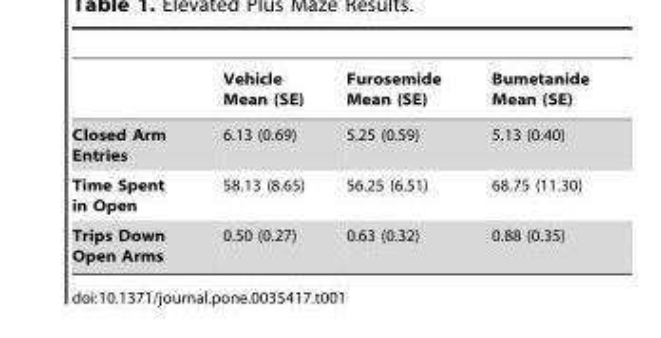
<table><thead><tr><td></td><td>Vehicle Mean (SE)</td><td>Furosemide Mean (SE)</td><td>Bumetanide Mean (SE)</td></tr></thead><tbody><tr><td>Closed Arm Entries</td><td>6.13 (0.69)</td><td>5.25 (0.59)</td><td>5.13 (0.40)</td></tr><tr><td>Time Spent in Open</td><td>58.13 (8.65)</td><td>56.25 (6.51)</td><td>68.75 (11.30)</td></tr><tr><td>Trips Down Open Arms</td><td>0.50 (0.27)</td><td>0.63 (0.32)</td><td>0.88 (0.35)</td></tr></tbody></table>